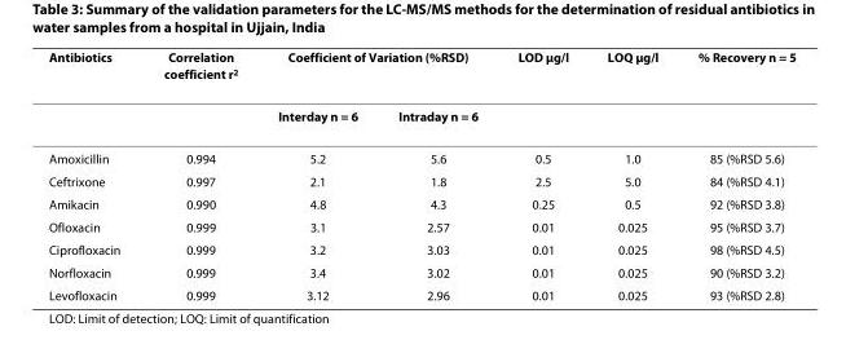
<table><thead><tr><td rowspan="2">Antibiotics</td><td rowspan="2">Correlation coefficient r<sup>2</sup></td><td colspan="2">Coefficient of Variation (%RSD)</td><td rowspan="2">LOD μg/l</td><td rowspan="2">LOQ μg/l</td><td rowspan="2">% Recovery n = 5</td></tr><tr><td>Interday n = 6</td><td>Intraday n = 6</td></tr></thead><tbody><tr><td>Amoxicillin</td><td>0.994</td><td>5.2</td><td>5.6</td><td>0.5</td><td>1.0</td><td>85 (%RSD 5.6)</td></tr><tr><td>Ceftrixone</td><td>0.997</td><td>2.1</td><td>1.8</td><td>2.5</td><td>5.0</td><td>84 (%RSD 4.1)</td></tr><tr><td>Amikacin</td><td>0.990</td><td>4.8</td><td>4.3</td><td>0.25</td><td>0.5</td><td>92 (%RSD 3.8)</td></tr><tr><td>Ofloxacin</td><td>0.999</td><td>3.1</td><td>2.57</td><td>0.01</td><td>0.025</td><td>95 (%RSD 3.7)</td></tr><tr><td>Ciprofloxacin</td><td>0.999</td><td>3.2</td><td>3.03</td><td>0.01</td><td>0.025</td><td>98 (%RSD 4.5)</td></tr><tr><td>Norfloxacin</td><td>0.999</td><td>3.4</td><td>3.02</td><td>0.01</td><td>0.025</td><td>90 (%RSD 3.2)</td></tr><tr><td>Levofloxacin</td><td>0.999</td><td>3.12</td><td>2.96</td><td>0.01</td><td>0.025</td><td>93 (%RSD 2.8)</td></tr></tbody></table>